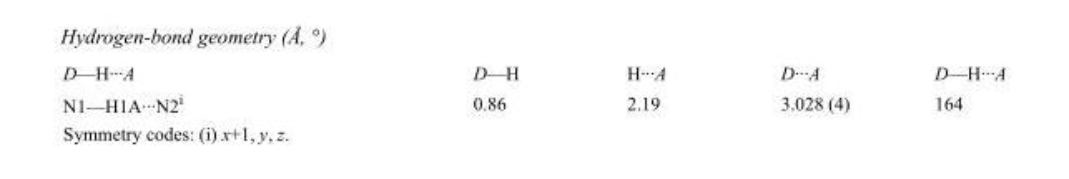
<table><tbody><tr><td>D—H···A</td><td>D—H</td><td>H···A</td><td>D···A</td><td>D—H···A</td></tr><tr><td>N1—H1A···N2<sup>i</sup></td><td>0.86</td><td>2.19</td><td>3.028 (4)</td><td>164</td></tr></tbody></table>